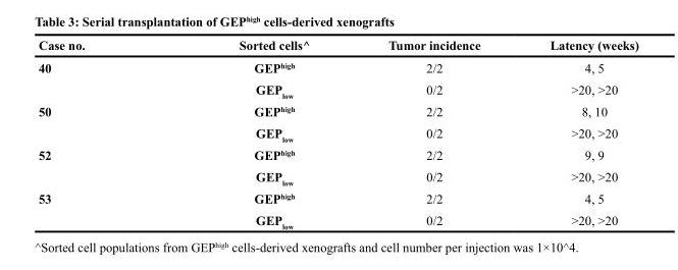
<table><thead><tr><td>Case no.</td><td>Sorted cells^</td><td>Tumor incidence</td><td>Latency (weeks)</td></tr></thead><tbody><tr><td rowspan="2">40</td><td>GEP<sup>high</sup></td><td>2/2</td><td>4, 5</td></tr><tr><td>GEP<sub>low</sub></td><td>0/2</td><td>&gt;20, &gt;20</td></tr><tr><td rowspan="2">50</td><td>GEP<sup>high</sup></td><td>2/2</td><td>8, 10</td></tr><tr><td>GEP<sub>low</sub></td><td>0/2</td><td>&gt;20, &gt;20</td></tr><tr><td rowspan="2">52</td><td>GEP<sup>high</sup></td><td>2/2</td><td>9, 9</td></tr><tr><td>GEP<sub>low</sub></td><td>0/2</td><td>&gt;20, &gt;20</td></tr><tr><td rowspan="2">53</td><td>GEP<sup>high</sup></td><td>2/2</td><td>4, 5</td></tr><tr><td>GEP<sub>low</sub></td><td>0/2</td><td>&gt;20, &gt;20</td></tr></tbody></table>